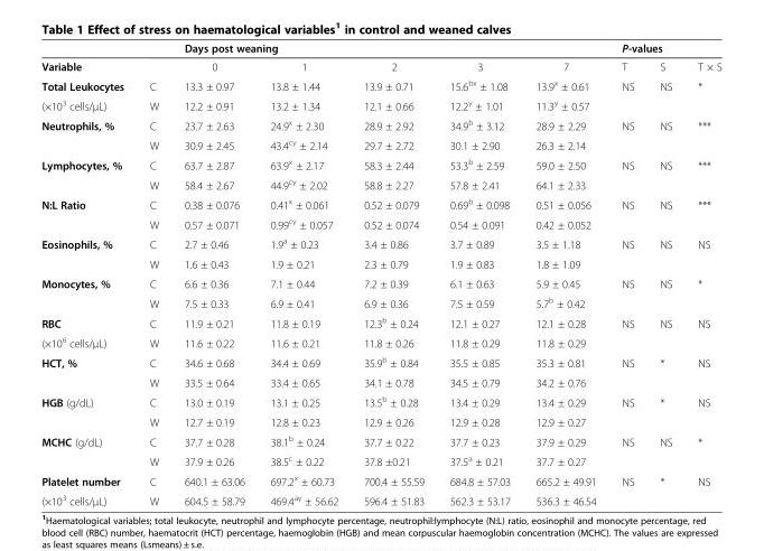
<table><thead><tr><td rowspan="2">Variable</td><td rowspan="2"></td><td colspan="5">Days post weaning</td><td colspan="3">P-values</td></tr><tr><td>0</td><td>1</td><td>2</td><td>3</td><td>7</td><td>T</td><td>S</td><td>T × S</td></tr></thead><tbody><tr><td>Total Leukocytes</td><td>C</td><td>13.3 ± 0.97</td><td>13.8 ± 1.44</td><td>13.9 ± 0.71</td><td>15.6<sup>bx</sup> ± 1.08</td><td>13.9<sup>x</sup> ± 0.61</td><td>NS</td><td>NS</td><td>*</td></tr><tr><td>(×10<sup>3</sup> cells/μL)</td><td>W</td><td>12.2 ± 0.91</td><td>13.2 ± 1.34</td><td>12.1 ± 0.66</td><td>12.2<sup>y</sup> ± 1.01</td><td>11.3<sup>y</sup> ± 0.57</td><td></td><td></td><td></td></tr><tr><td rowspan="2">Neutrophils, %</td><td>C</td><td>23.7 ± 2.63</td><td>24.9<sup>x</sup> ± 2.30</td><td>28.9 ± 2.92</td><td>34.9<sup>b</sup> ± 3.12</td><td>28.9 ± 2.29</td><td>NS</td><td>NS</td><td>***</td></tr><tr><td>W</td><td>30.9 ± 2.45</td><td>43.4<sup>cy</sup> ± 2.14</td><td>29.7 ± 2.72</td><td>30.1 ± 2.90</td><td>26.3 ± 2.14</td><td></td><td></td><td></td></tr><tr><td rowspan="2">Lymphocytes, %</td><td>C</td><td>63.7 ± 2.87</td><td>63.9<sup>x</sup> ± 2.17</td><td>58.3 ± 2.44</td><td>53.3<sup>b</sup> ± 2.59</td><td>59.0 ± 2.50</td><td>NS</td><td>NS</td><td>***</td></tr><tr><td>W</td><td>58.4 ± 2.67</td><td>44.9<sup>cy</sup> ± 2.02</td><td>58.8 ± 2.27</td><td>57.8 ± 2.41</td><td>64.1 ± 2.33</td><td></td><td></td><td></td></tr><tr><td rowspan="2">N:L Ratio</td><td>C</td><td>0.38 ± 0.076</td><td>0.41<sup>x</sup> ± 0.061</td><td>0.52 ± 0.079</td><td>0.69<sup>b</sup> ± 0.098</td><td>0.51 ± 0.056</td><td>NS</td><td>NS</td><td>***</td></tr><tr><td>W</td><td>0.57 ± 0.071</td><td>0.99<sup>cy</sup> ± 0.057</td><td>0.52 ± 0.074</td><td>0.54 ± 0.091</td><td>0.42 ± 0.052</td><td></td><td></td><td></td></tr><tr><td rowspan="2">Eosinophils, %</td><td>C</td><td>2.7 ± 0.46</td><td>1.9<sup>a</sup> ± 0.23</td><td>3.4 ± 0.86</td><td>3.7 ± 0.89</td><td>3.5 ± 1.18</td><td>NS</td><td>NS</td><td>NS</td></tr><tr><td>W</td><td>1.6 ± 0.43</td><td>1.9 ± 0.21</td><td>2.3 ± 0.79</td><td>1.9 ± 0.83</td><td>1.8 ± 1.09</td><td></td><td></td><td></td></tr><tr><td rowspan="2">Monocytes, %</td><td>C</td><td>6.6 ± 0.36</td><td>7.1 ± 0.44</td><td>7.2 ± 0.39</td><td>6.1 ± 0.63</td><td>5.9 ± 0.45</td><td>NS</td><td>NS</td><td>*</td></tr><tr><td>W</td><td>7.5 ± 0.33</td><td>6.9 ± 0.41</td><td>6.9 ± 0.36</td><td>7.5 ± 0.59</td><td>5.7<sup>b</sup> ± 0.42</td><td></td><td></td><td></td></tr><tr><td>RBC</td><td>C</td><td>11.9 ± 0.21</td><td>11.8 ± 0.19</td><td>12.3<sup>b</sup> ± 0.24</td><td>12.1 ± 0.27</td><td>12.1 ± 0.28</td><td>NS</td><td>NS</td><td>NS</td></tr><tr><td>(×10<sup>6</sup> cells/μL)</td><td>W</td><td>11.6 ± 0.22</td><td>11.6 ± 0.21</td><td>11.8 ± 0.26</td><td>11.8 ± 0.29</td><td>11.8 ± 0.29</td><td></td><td></td><td></td></tr><tr><td rowspan="2">HCT, %</td><td>C</td><td>34.6 ± 0.68</td><td>34.4 ± 0.69</td><td>35.9<sup>b</sup> ± 0.84</td><td>35.5 ± 0.85</td><td>35.3 ± 0.81</td><td>NS</td><td>*</td><td>NS</td></tr><tr><td>W</td><td>33.5 ± 0.64</td><td>33.4 ± 0.65</td><td>34.1 ± 0.78</td><td>34.5 ± 0.79</td><td>34.2 ± 0.76</td><td></td><td></td><td></td></tr><tr><td rowspan="2">HGB (g/dL)</td><td>C</td><td>13.0 ± 0.19</td><td>13.1 ± 0.25</td><td>13.5<sup>b</sup> ± 0.28</td><td>13.4 ± 0.29</td><td>13.4 ± 0.29</td><td>NS</td><td>*</td><td>NS</td></tr><tr><td>W</td><td>12.7 ± 0.19</td><td>12.8 ± 0.23</td><td>12.9 ± 0.26</td><td>12.9 ± 0.28</td><td>12.9 ± 0.27</td><td></td><td></td><td></td></tr><tr><td rowspan="2">MCHC (g/dL)</td><td>C</td><td>37.7 ± 0.28</td><td>38.1<sup>b</sup> ± 0.24</td><td>37.7 ± 0.22</td><td>37.7 ± 0.23</td><td>37.9 ± 0.29</td><td>NS</td><td>NS</td><td>*</td></tr><tr><td>W</td><td>37.9 ± 0.26</td><td>38.5<sup>c</sup> ± 0.22</td><td>37.8 ±0.21</td><td>37.5<sup>a</sup> ± 0.21</td><td>37.7 ± 0.27</td><td></td><td></td><td></td></tr><tr><td>Platelet number</td><td>C</td><td>640.1 ± 63.06</td><td>697.2<sup>x</sup> ± 60.73</td><td>700.4 ± 55.59</td><td>684.8 ± 57.03</td><td>665.2 ± 49.91</td><td>NS</td><td>*</td><td>NS</td></tr><tr><td>(×10<sup>3</sup> cells/μL)</td><td>W</td><td>604.5 ± 58.79</td><td>469.4<sup>ay</sup> ± 56.62</td><td>596.4 ± 51.83</td><td>562.3 ± 53.17</td><td>536.3 ± 46.54</td><td></td><td></td><td></td></tr></tbody></table>